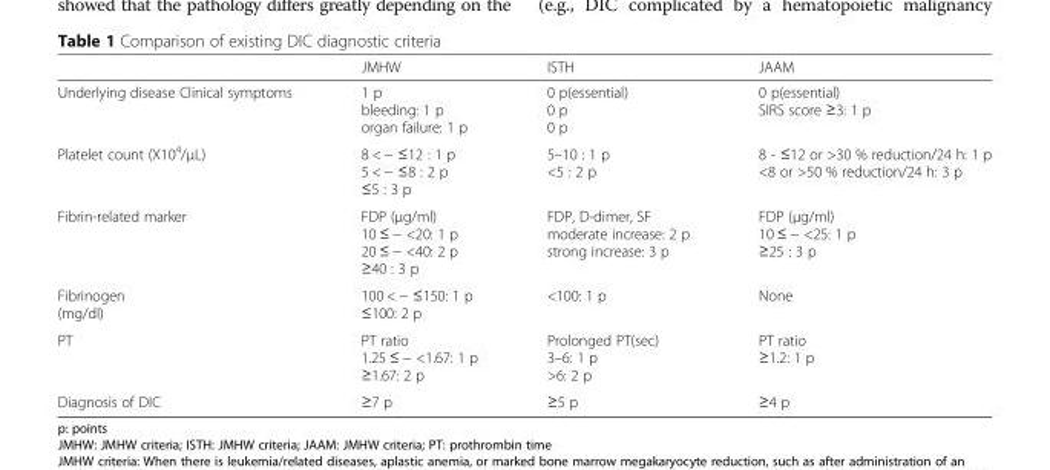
<table><thead><tr><td></td><td>JMHW</td><td>ISTH</td><td>JAAM</td></tr></thead><tbody><tr><td>Underlying disease Clinical symptoms</td><td>1 p bleeding: 1 p organ failure: 1 p</td><td>0 p(essential) 0 p 0 p</td><td>0 p(essential) SIRS score ≥3: 1 p</td></tr><tr><td>Platelet count (X10<sup>4</sup>/μL)</td><td>8 &lt; − ≤12 : 1 p 5 &lt; − ≤8 : 2 p ≤5 : 3 p</td><td>5–10 : 1 p &lt;5 : 2 p</td><td>8 - ≤12 or &gt;30 % reduction/24 h: 1 p &lt;8 or &gt;50 % reduction/24 h: 3 p</td></tr><tr><td>Fibrin-related marker</td><td>FDP (μg/ml) 10 ≤ − &lt;20: 1 p 20 ≤ − &lt;40: 2 p ≥40 : 3 p</td><td>FDP, D-dimer, SF moderate increase: 2 p strong increase: 3 p</td><td>FDP (μg/ml) 10 ≤ − &lt;25: 1 p ≥25 : 3 p</td></tr><tr><td>Fibrinogen (mg/dl)</td><td>100 &lt; − ≤150: 1 p ≤100: 2 p</td><td>&lt;100: 1 p</td><td>None</td></tr><tr><td>PT</td><td>PT ratio 1.25 ≤ − &lt;1.67: 1 p ≥1.67: 2 p</td><td>Prolonged PT(sec) 3–6: 1 p &gt;6: 2 p</td><td>PT ratio ≥1.2: 1 p</td></tr><tr><td>Diagnosis of DIC</td><td>≥7 p</td><td>≥5 p</td><td>≥4 p</td></tr></tbody></table>